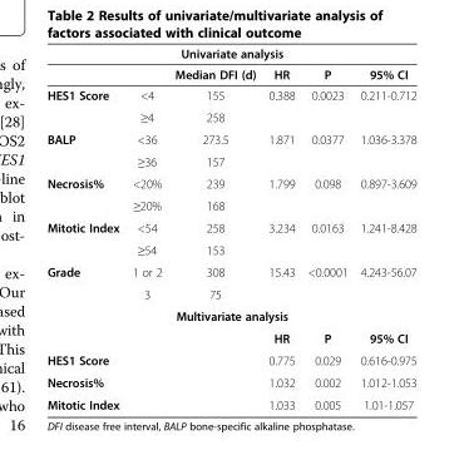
<table><thead><tr><td colspan="6">Univariate analysis</td></tr><tr><td></td><td></td><td>Median DFI (d)</td><td>HR</td><td>P</td><td>95% CI</td></tr></thead><tbody><tr><td rowspan="2">HES1 Score</td><td>&lt;4</td><td>155</td><td>0.388</td><td>0.0023</td><td>0.211-0.712</td></tr><tr><td>≥4</td><td>258</td><td></td><td></td><td></td></tr><tr><td rowspan="2">BALP</td><td>&lt;36</td><td>273.5</td><td>1.871</td><td>0.0377</td><td>1.036-3.378</td></tr><tr><td>≥36</td><td>157</td><td></td><td></td><td></td></tr><tr><td rowspan="2">Necrosis%</td><td>&lt;20%</td><td>239</td><td>1.799</td><td>0.098</td><td>0.897-3.609</td></tr><tr><td>≥20%</td><td>168</td><td></td><td></td><td></td></tr><tr><td rowspan="2">Mitotic Index</td><td>&lt;54</td><td>258</td><td>3.234</td><td>0.0163</td><td>1.241-8.428</td></tr><tr><td>≥54</td><td>153</td><td></td><td></td><td></td></tr><tr><td rowspan="2">Grade</td><td>1 or 2</td><td>308</td><td>15.43</td><td>&lt;0.0001</td><td>4.243-56.07</td></tr><tr><td>3</td><td>75</td><td></td><td></td><td></td></tr><tr><td colspan="6">Multivariate analysis</td></tr><tr><td></td><td></td><td></td><td>HR</td><td>P</td><td>95% CI</td></tr><tr><td>HES1 Score</td><td></td><td></td><td>0.775</td><td>0.029</td><td>0.616-0.975</td></tr><tr><td>Necrosis%</td><td></td><td></td><td>1.032</td><td>0.002</td><td>1.012-1.053</td></tr><tr><td colspan="2">Mitotic Index</td><td></td><td>1.033</td><td>0.005</td><td>1.01-1.057</td></tr></tbody></table>